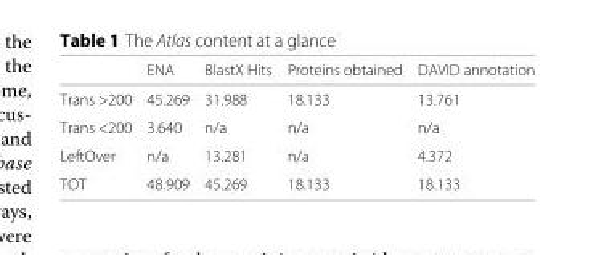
<table><thead><tr><td></td><td>ENA</td><td>BlastX Hits</td><td>Proteins obtained</td><td>DAVID annotation</td></tr></thead><tbody><tr><td>Trans &gt;200</td><td>45.269</td><td>31.988</td><td>18.133</td><td>13.761</td></tr><tr><td>Trans &lt;200</td><td>3.640</td><td>n/a</td><td>n/a</td><td>n/a</td></tr><tr><td>LeftOver</td><td>n/a</td><td>13.281</td><td>n/a</td><td>4.372</td></tr><tr><td>TOT</td><td>48.909</td><td>45.269</td><td>18.133</td><td>18.133</td></tr></tbody></table>